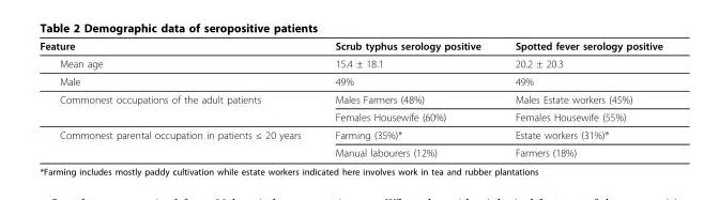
<table><thead><tr><td>Feature</td><td>Scrub typhus serology positive</td><td>Spotted fever serology positive</td></tr></thead><tbody><tr><td>Mean age</td><td>15.4 ± 18.1</td><td>20.2 ± 20.3</td></tr><tr><td>Male</td><td>49%</td><td>49%</td></tr><tr><td rowspan="2">Commonest occupations of the adult patients</td><td>Males Farmers (48%)</td><td>Males Estate workers (45%)</td></tr><tr><td>Females Housewife (60%)</td><td>Females Housewife (55%)</td></tr><tr><td rowspan="2">Commonest parental occupation in patients ≤ 20 years</td><td>Farming (35%)*</td><td>Estate workers (31%)*</td></tr><tr><td>Manual labourers (12%)</td><td>Farmers (18%)</td></tr></tbody></table>